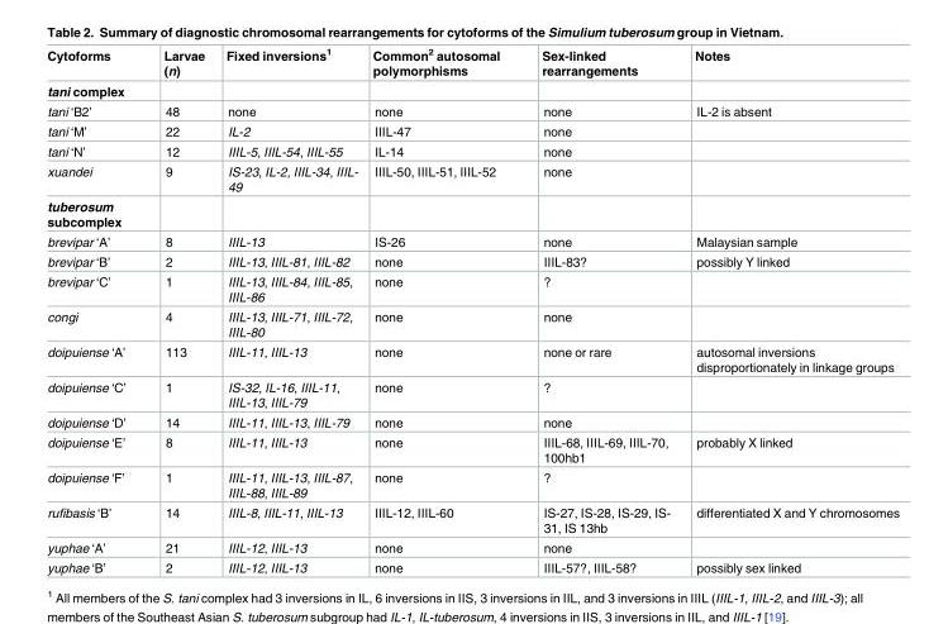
<table><thead><tr><td>Cytoforms</td><td>Larvae (n)</td><td>Fixed inversions<sup>1</sup></td><td>Common<sup>2</sup> autosomal polymorphisms</td><td>Sex-linked rearrangements</td><td>Notes</td></tr></thead><tbody><tr><td colspan="6">tani complex</td></tr><tr><td>tani ‘B2’</td><td>48</td><td>none</td><td>none</td><td>none</td><td>IL-2 is absent</td></tr><tr><td>tani ‘M’</td><td>22</td><td>IL-2</td><td>IIIL-47</td><td>none</td><td></td></tr><tr><td>tani ‘N’</td><td>12</td><td>IIIL-5, IIIL-54, IIIL-55</td><td>IL-14</td><td>none</td><td></td></tr><tr><td>xuandei</td><td>9</td><td>IS-23, IL-2, IIIL-34, IIIL- 49</td><td>IIIL-50, IIIL-51, IIIL-52</td><td>none</td><td></td></tr><tr><td colspan="6">tuberosum subcomplex</td></tr><tr><td>brevipar ‘A’</td><td>8</td><td>IIIL-13</td><td>IS-26</td><td>none</td><td>Malaysian sample</td></tr><tr><td>brevipar ‘B’</td><td>2</td><td>IIIL-13, IIIL-81, IIIL-82</td><td>none</td><td>IIIL-83?</td><td>possibly Y linked</td></tr><tr><td>brevipar ‘C’</td><td>1</td><td>IIIL-13, IIIL-84, IIIL-85, IIIL-86</td><td>none</td><td>?</td><td></td></tr><tr><td>congi</td><td>4</td><td>IIIL-13, IIIL-71, IIIL-72, IIIL-80</td><td>none</td><td>none</td><td></td></tr><tr><td>doipuiense ‘A’</td><td>113</td><td>IIIL-11, IIIL-13</td><td>none</td><td>none or rare</td><td>autosomal inversions disproportionately in linkage groups</td></tr><tr><td>doipuiense ‘C’</td><td>1</td><td>IS-32, IL-16, IIIL-11, IIIL-13, IIIL-79</td><td>none</td><td>?</td><td></td></tr><tr><td>doipuiense ‘D’</td><td>14</td><td>IIIL-11, IIIL-13, IIIL-79</td><td>none</td><td>none</td><td></td></tr><tr><td>doipuiense ‘E’</td><td>8</td><td>IIIL-11, IIIL-13</td><td>none</td><td>IIIL-68, IIIL-69, IIIL-70, 100hb1</td><td>probably X linked</td></tr><tr><td>doipuiense ‘F’</td><td>1</td><td>IIIL-11, IIIL-13, IIIL-87, IIIL-88, IIIL-89</td><td>none</td><td>?</td><td></td></tr><tr><td>rufibasis ‘B’</td><td>14</td><td>IIIL-8, IIIL-11, IIIL-13</td><td>IIIL-12, IIIL-60</td><td>IS-27, IS-28, IS-29, IS- 31, IS 13hb</td><td>differentiated X and Y chromosomes</td></tr><tr><td>yuphae ‘A’</td><td>21</td><td>IIIL-12, IIIL-13</td><td>none</td><td>none</td><td></td></tr><tr><td>yuphae ‘B’</td><td>2</td><td>IIIL-12, IIIL-13</td><td>none</td><td>IIIL-57?, IIIL-58?</td><td>possibly sex linked</td></tr></tbody></table>